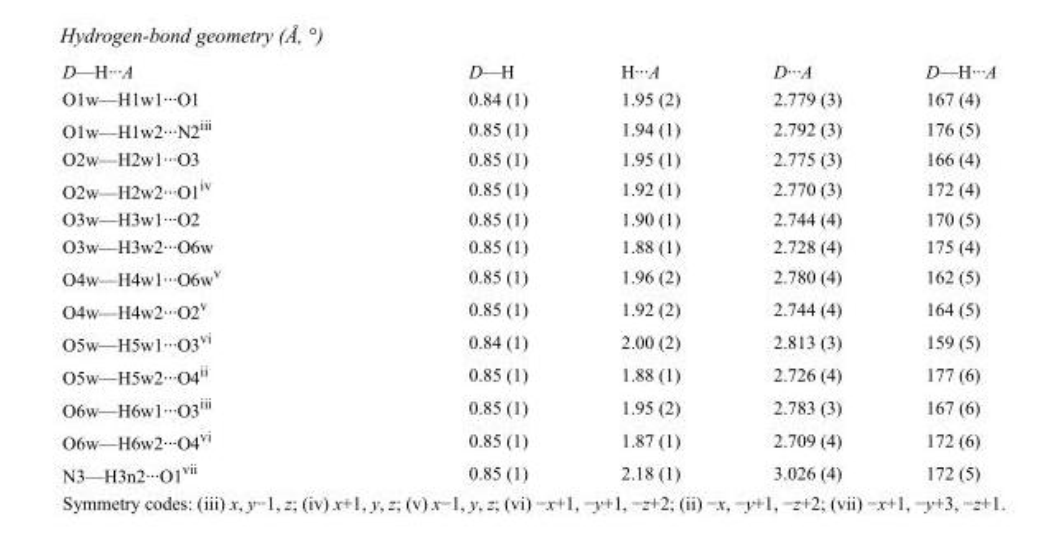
<table><tbody><tr><td>D—H···A</td><td>D—H</td><td>H···A</td><td>D···A</td><td>D—H···A</td></tr><tr><td>O1w—H1w1···O1</td><td>0.84 (1)</td><td>1.95 (2)</td><td>2.779 (3)</td><td>167 (4)</td></tr><tr><td>O1w—H1w2···N2<sup>iii</sup></td><td>0.85 (1)</td><td>1.94 (1)</td><td>2.792 (3)</td><td>176 (5)</td></tr><tr><td>O2w—H2w1···O3</td><td>0.85 (1)</td><td>1.95 (1)</td><td>2.775 (3)</td><td>166 (4)</td></tr><tr><td>O2w—H2w2···O1<sup>iv</sup></td><td>0.85 (1)</td><td>1.92 (1)</td><td>2.770 (3)</td><td>172 (4)</td></tr><tr><td>O3w—H3w1···O2</td><td>0.85 (1)</td><td>1.90 (1)</td><td>2.744 (4)</td><td>170 (5)</td></tr><tr><td>O3w—H3w2···O6w</td><td>0.85 (1)</td><td>1.88 (1)</td><td>2.728 (4)</td><td>175 (4)</td></tr><tr><td>O4w—H4w1···O6w<sup>v</sup></td><td>0.85 (1)</td><td>1.96 (2)</td><td>2.780 (4)</td><td>162 (5)</td></tr><tr><td>O4w—H4w2···O2<sup>v</sup></td><td>0.85 (1)</td><td>1.92 (2)</td><td>2.744 (4)</td><td>164 (5)</td></tr><tr><td>O5w—H5w1···O3<sup>vi</sup></td><td>0.84 (1)</td><td>2.00 (2)</td><td>2.813 (3)</td><td>159 (5)</td></tr><tr><td>O5w—H5w2···O4<sup>ii</sup></td><td>0.85 (1)</td><td>1.88 (1)</td><td>2.726 (4)</td><td>177 (6)</td></tr><tr><td>O6w—H6w1···O3<sup>iii</sup></td><td>0.85 (1)</td><td>1.95 (2)</td><td>2.783 (3)</td><td>167 (6)</td></tr><tr><td>O6w—H6w2···O4<sup>vi</sup></td><td>0.85 (1)</td><td>1.87 (1)</td><td>2.709 (4)</td><td>172 (6)</td></tr><tr><td>N3—H3n2···O1<sup>vii</sup></td><td>0.85 (1)</td><td>2.18 (1)</td><td>3.026 (4)</td><td>172 (5)</td></tr></tbody></table>